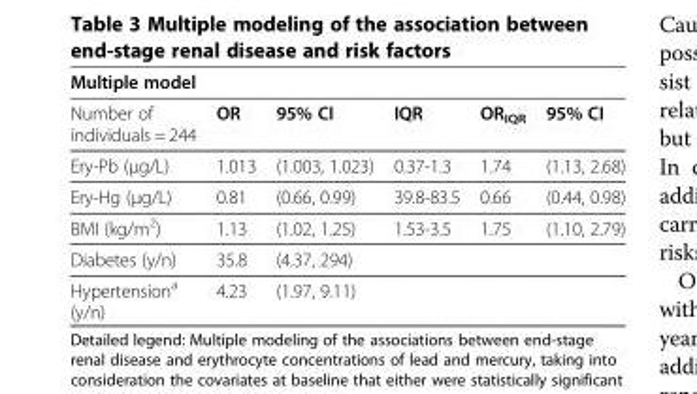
<table><thead><tr><td colspan="6">Multiple model</td></tr><tr><td>Number of individuals = 244</td><td>OR</td><td>95% CI</td><td>IQR</td><td>OR<sub>IQR</sub></td><td>95% CI</td></tr></thead><tbody><tr><td>Ery-Pb (μg/L)</td><td>1.013</td><td>(1.003, 1.023)</td><td>0.37-1.3</td><td>1.74</td><td>(1.13, 2.68)</td></tr><tr><td>Ery-Hg (μg/L)</td><td>0.81</td><td>(0.66, 0.99)</td><td>39.8-83.5</td><td>0.66</td><td>(0.44, 0.98)</td></tr><tr><td>BMI (kg/m<sup>2</sup>)</td><td>1.13</td><td>(1.02, 1.25)</td><td>1.53-3.5</td><td>1.75</td><td>(1.10, 2.79)</td></tr><tr><td>Diabetes (y/n)</td><td>35.8</td><td>(4.37, 294)</td><td></td><td></td><td></td></tr><tr><td>Hypertension<sup>a</sup> (y/n)</td><td>4.23</td><td>(1.97, 9.11)</td><td></td><td></td><td></td></tr></tbody></table>